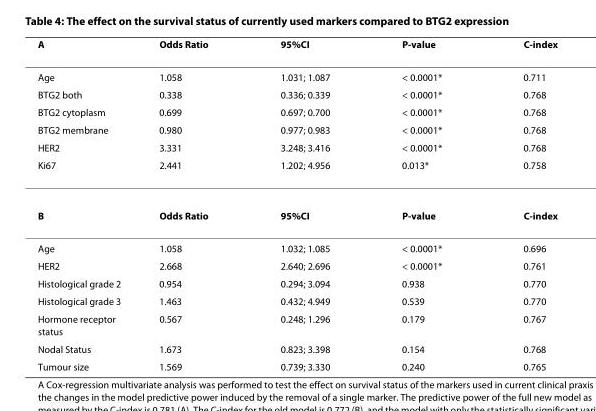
<table><thead><tr><td>A</td><td>Odds Ratio</td><td>95%CI</td><td>P-value</td><td>C-index</td></tr></thead><tbody><tr><td>Age</td><td>1.058</td><td>1.031; 1.087</td><td>&lt; 0.0001*</td><td>0.711</td></tr><tr><td>BTG2 both</td><td>0.338</td><td>0.336; 0.339</td><td>&lt; 0.0001*</td><td>0.768</td></tr><tr><td>BTG2 cytoplasm</td><td>0.699</td><td>0.697; 0.700</td><td>&lt; 0.0001*</td><td>0.768</td></tr><tr><td>BTG2 membrane</td><td>0.980</td><td>0.977; 0.983</td><td>&lt; 0.0001*</td><td>0.768</td></tr><tr><td>HER2</td><td>3.331</td><td>3.248; 3.416</td><td>&lt; 0.0001*</td><td>0.768</td></tr><tr><td>Ki67</td><td>2.441</td><td>1.202; 4.956</td><td>0.013*</td><td>0.758</td></tr><tr><td>B</td><td>Odds Ratio</td><td>95%CI</td><td>P-value</td><td>C-index</td></tr><tr><td>Age</td><td>1.058</td><td>1.032; 1.085</td><td>&lt; 0.0001*</td><td>0.696</td></tr><tr><td>HER2</td><td>2.668</td><td>2.640; 2.696</td><td>&lt; 0.0001*</td><td>0.761</td></tr><tr><td>Histological grade 2</td><td>0.954</td><td>0.294; 3.094</td><td>0.938</td><td>0.770</td></tr><tr><td>Histological grade 3</td><td>1.463</td><td>0.432; 4.949</td><td>0.539</td><td>0.770</td></tr><tr><td>Hormone receptor status</td><td>0.567</td><td>0.248; 1.296</td><td>0.179</td><td>0.767</td></tr><tr><td>Nodal Status</td><td>1.673</td><td>0.823; 3.398</td><td>0.154</td><td>0.768</td></tr><tr><td>Tumour size</td><td>1.569</td><td>0.739; 3.330</td><td>0.240</td><td>0.765</td></tr></tbody></table>